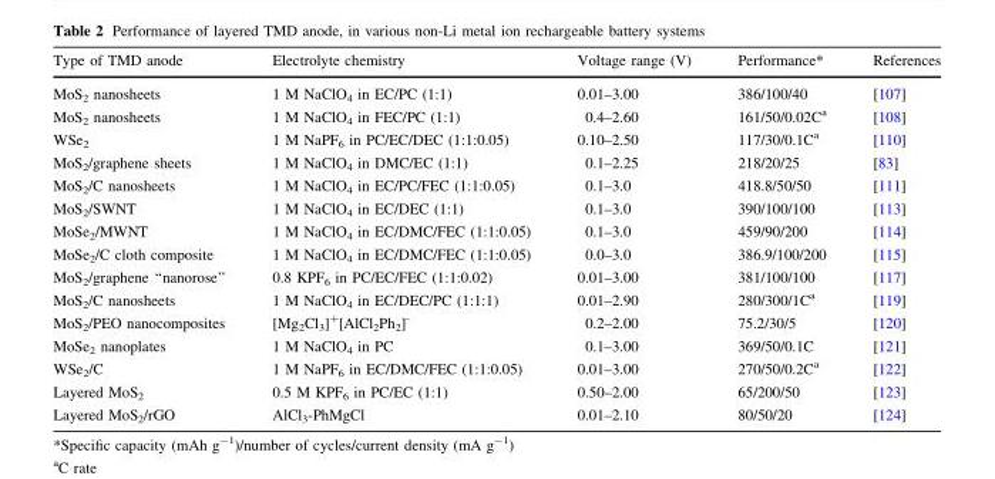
<table><thead><tr><td>Type of TMD anode</td><td>Electrolyte chemistry</td><td>Voltage range (V)</td><td>Performance*</td><td>References</td></tr></thead><tbody><tr><td>MoS<sub>2</sub> nanosheets</td><td>1 M NaClO<sub>4</sub> in EC/PC (1:1)</td><td>0.01–3.00</td><td>386/100/40</td><td>[107]</td></tr><tr><td>MoS<sub>2</sub> nanosheets</td><td>1 M NaClO<sub>4</sub> in FEC/PC (1:1)</td><td>0.4–2.60</td><td>161/50/0.02C<sup>a</sup></td><td>[108]</td></tr><tr><td>WSe<sub>2</sub></td><td>1 M NaPF<sub>6</sub> in PC/EC/DEC (1:1:0.05)</td><td>0.10–2.50</td><td>117/30/0.1C<sup>a</sup></td><td>[110]</td></tr><tr><td>MoS<sub>2</sub>/graphene sheets</td><td>1 M NaClO<sub>4</sub> in DMC/EC (1:1)</td><td>0.1–2.25</td><td>218/20/25</td><td>[83]</td></tr><tr><td>MoS<sub>2</sub>/C nanosheets</td><td>1 M NaClO<sub>4</sub> in EC/PC/FEC (1:1:0.05)</td><td>0.1–3.0</td><td>418.8/50/50</td><td>[111]</td></tr><tr><td>MoS<sub>2</sub>/SWNT</td><td>1 M NaClO<sub>4</sub> in EC/DEC (1:1)</td><td>0.1–3.0</td><td>390/100/100</td><td>[113]</td></tr><tr><td>MoSe<sub>2</sub>/MWNT</td><td>1 M NaClO<sub>4</sub> in EC/DMC/FEC (1:1:0.05)</td><td>0.1–3.0</td><td>459/90/200</td><td>[114]</td></tr><tr><td>MoSe<sub>2</sub>/C cloth composite</td><td>1 M NaClO<sub>4</sub> in EC/DMC/FEC (1:1:0.05)</td><td>0.0–3.0</td><td>386.9/100/200</td><td>[115]</td></tr><tr><td>MoS2/graphene ‘‘nanorose’’</td><td>0.8 KPF<sub>6</sub> in PC/EC/FEC (1:1:0.02)</td><td>0.01–3.00</td><td>381/100/100</td><td>[117]</td></tr><tr><td>MoS<sub>2</sub>/C nanosheets</td><td>1 M NaClO<sub>4</sub> in EC/DEC/PC (1:1:1)</td><td>0.01–2.90</td><td>280/300/1C<sup>a</sup></td><td>[119]</td></tr><tr><td>MoS<sub>2</sub>/PEO nanocomposites</td><td>[Mg<sub>2</sub>Cl<sub>3</sub>]<sup>+</sup>[AlCl<sub>2</sub>Ph<sub>2</sub>]<sup>-</sup></td><td>0.2–2.00</td><td>75.2/30/5</td><td>[120]</td></tr><tr><td>MoSe<sub>2</sub> nanoplates</td><td>1 M NaClO<sub>4</sub> in PC</td><td>0.1–3.00</td><td>369/50/0.1C</td><td>[121]</td></tr><tr><td>WSe<sub>2</sub>/C</td><td>1 M NaPF<sub>6</sub> in EC/DMC/FEC (1:1:0.05)</td><td>0.01–3.00</td><td>270/50/0.2C<sup>a</sup></td><td>[122]</td></tr><tr><td>Layered MoS<sub>2</sub></td><td>0.5 M KPF<sub>6</sub> in PC/EC (1:1)</td><td>0.50–2.00</td><td>65/200/50</td><td>[123]</td></tr><tr><td>Layered MoS<sub>2</sub>/rGO</td><td>AlCl<sub>3</sub>-PhMgCl</td><td>0.01–2.10</td><td>80/50/20</td><td>[124]</td></tr></tbody></table>